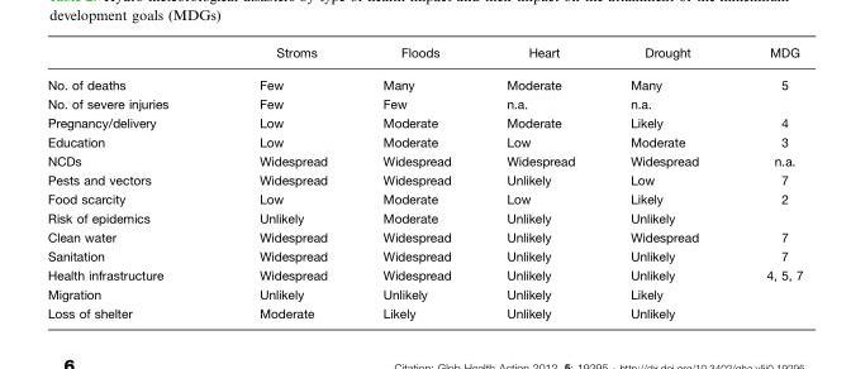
<table><thead><tr><td></td><td>Stroms</td><td>Floods</td><td>Heart</td><td>Drought</td><td>MDG</td></tr></thead><tbody><tr><td>No. of deaths</td><td>Few</td><td>Many</td><td>Moderate</td><td>Many</td><td>5</td></tr><tr><td>No. of severe injuries</td><td>Few</td><td>Few</td><td>n.a.</td><td>n.a.</td><td></td></tr><tr><td>Pregnancy/delivery</td><td>Low</td><td>Moderate</td><td>Moderate</td><td>Likely</td><td>4</td></tr><tr><td>Education</td><td>Low</td><td>Moderate</td><td>Low</td><td>Moderate</td><td>3</td></tr><tr><td>NCDs</td><td>Widespread</td><td>Widespread</td><td>Widespread</td><td>Widespread</td><td>n.a.</td></tr><tr><td>Pests and vectors</td><td>Widespread</td><td>Widespread</td><td>Unlikely</td><td>Low</td><td>7</td></tr><tr><td>Food scarcity</td><td>Low</td><td>Moderate</td><td>Low</td><td>Likely</td><td>2</td></tr><tr><td>Risk of epidemics</td><td>Unlikely</td><td>Moderate</td><td>Unlikely</td><td>Unlikely</td><td></td></tr><tr><td>Clean water</td><td>Widespread</td><td>Widespread</td><td>Unlikely</td><td>Widespread</td><td>7</td></tr><tr><td>Sanitation</td><td>Widespread</td><td>Widespread</td><td>Unlikely</td><td>Unlikely</td><td>7</td></tr><tr><td>Health infrastructure</td><td>Widespread</td><td>Widespread</td><td>Unlikely</td><td>Unlikely</td><td>4, 5, 7</td></tr><tr><td>Migration</td><td>Unlikely</td><td>Unlikely</td><td>Unlikely</td><td>Likely</td><td></td></tr><tr><td>Loss of shelter</td><td>Moderate</td><td>Likely</td><td>Unlikely</td><td>Unlikely</td><td></td></tr></tbody></table>